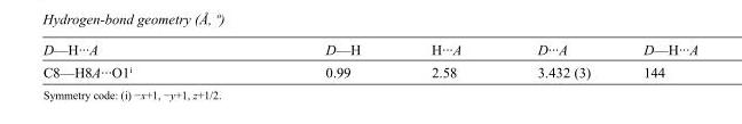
<table><tbody><tr><td>D—H···A</td><td>D—H</td><td>H···A</td><td>D···A</td><td>D—H···A</td></tr><tr><td>C8—H8A···O1<sup>i</sup></td><td>0.99</td><td>2.58</td><td>3.432 (3)</td><td>144</td></tr></tbody></table>